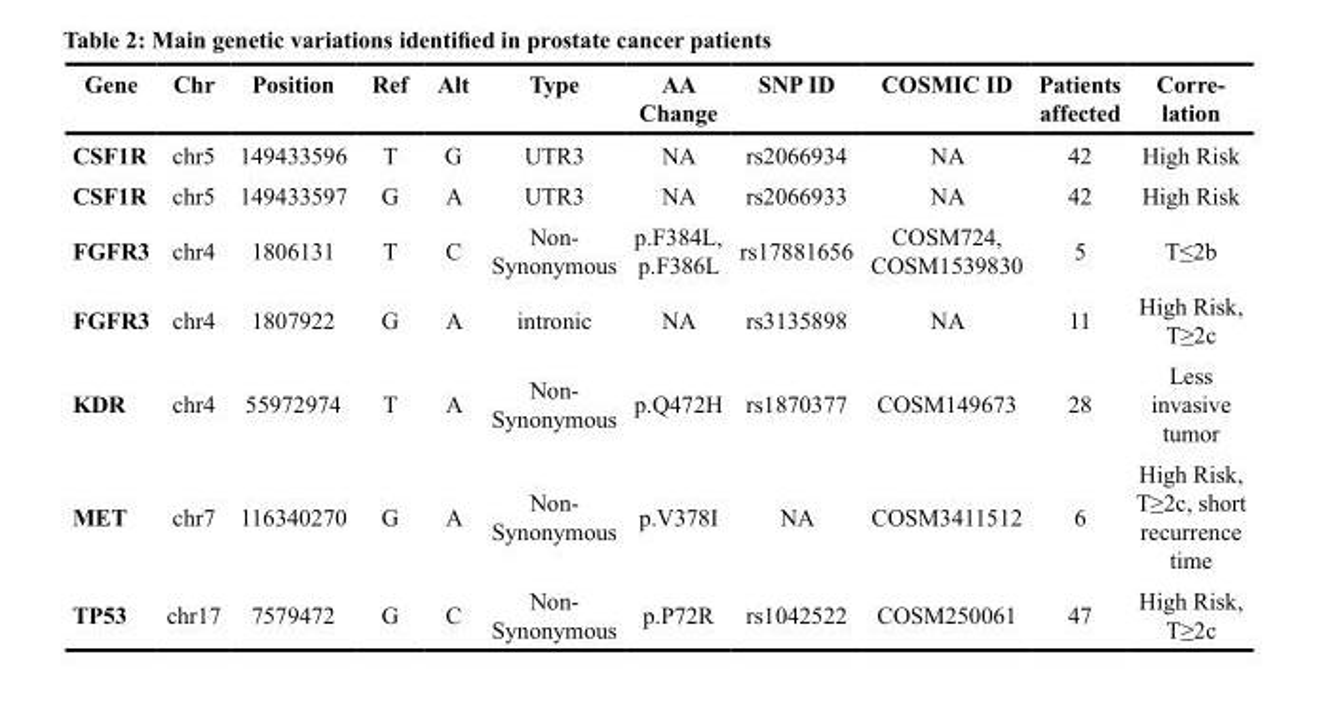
<table><thead><tr><td>Gene</td><td>Chr</td><td>Position</td><td>Ref</td><td>Alt</td><td>Type</td><td>AA Change</td><td>SNP ID</td><td>COSMIC ID</td><td>Patients affected</td><td>Corre lation</td></tr></thead><tbody><tr><td>CSF1R</td><td>chr5</td><td>149433596</td><td>T</td><td>G</td><td>UTR3</td><td>NA</td><td>rs2066934</td><td>NA</td><td>42</td><td>High Risk</td></tr><tr><td>CSF1R</td><td>chr5</td><td>149433597</td><td>G</td><td>A</td><td>UTR3</td><td>NA</td><td>rs2066933</td><td>NA</td><td>42</td><td>High Risk</td></tr><tr><td>FGFR3</td><td>chr4</td><td>1806131</td><td>T</td><td>C</td><td>Non- Synonymous</td><td>p.F384L, p.F386L</td><td>rs17881656</td><td>COSM724, COSM1539830</td><td>5</td><td>T≤2b</td></tr><tr><td>FGFR3</td><td>chr4</td><td>1807922</td><td>G</td><td>A</td><td>intronic</td><td>NA</td><td>rs3135898</td><td>NA</td><td>11</td><td>High Risk, T≥2c</td></tr><tr><td>KDR</td><td>chr4</td><td>55972974</td><td>T</td><td>A</td><td>Non- Synonymous</td><td>p.Q472H</td><td>rs1870377</td><td>COSM149673</td><td>28</td><td>Less invasive tumor</td></tr><tr><td>MET</td><td>chr7</td><td>116340270</td><td>G</td><td>A</td><td>Non- Synonymous</td><td>p.V378I</td><td>NA</td><td>COSM3411512</td><td>6</td><td>High Risk, T≥2c, short recurrence time</td></tr><tr><td>TP53</td><td>chr17</td><td>7579472</td><td>G</td><td>C</td><td>Non- Synonymous</td><td>p.P72R</td><td>rs1042522</td><td>COSM250061</td><td>47</td><td>High Risk, T≥2c</td></tr></tbody></table>